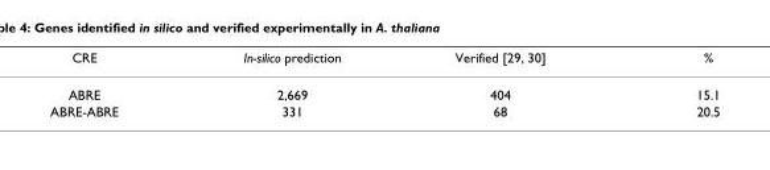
<table><thead><tr><td>CRE</td><td>In-silico prediction</td><td>Verified [29, 30]</td><td>%</td></tr></thead><tbody><tr><td>ABRE</td><td>2,669</td><td>404</td><td>15.1</td></tr><tr><td>ABRE-ABRE</td><td>331</td><td>68</td><td>20.5</td></tr></tbody></table>